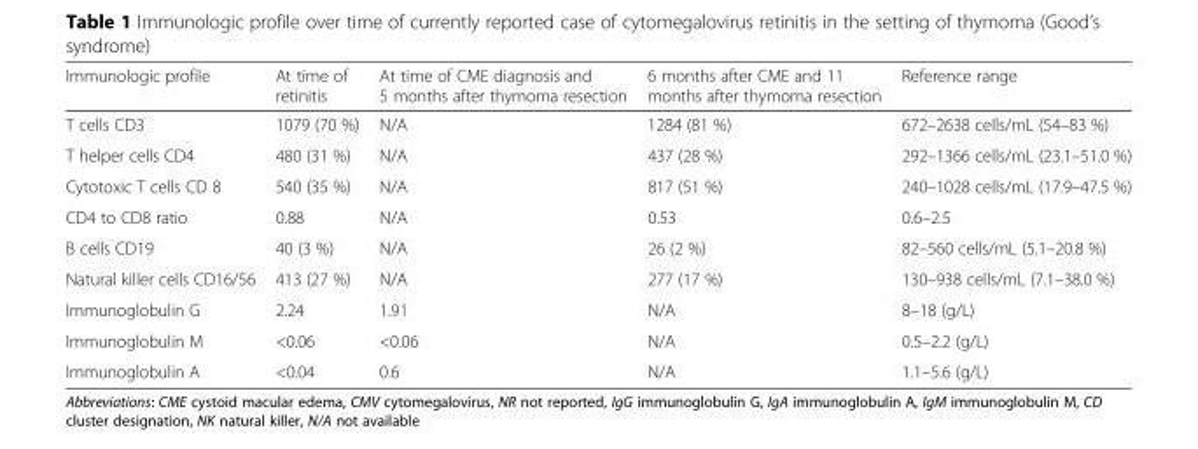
<table><thead><tr><td>Immunologic profile</td><td>At time of retinitis</td><td>At time of CME diagnosis and 5 months after thymoma resection</td><td>6 months after CME and 11 months after thymoma resection</td><td>Reference range</td></tr></thead><tbody><tr><td>T cells CD3</td><td>1079 (70 %)</td><td>N/A</td><td>1284 (81 %)</td><td>672–2638 cells/mL (54–83 %)</td></tr><tr><td>T helper cells CD4</td><td>480 (31 %)</td><td>N/A</td><td>437 (28 %)</td><td>292–1366 cells/mL (23.1–51.0 %)</td></tr><tr><td>Cytotoxic T cells CD 8</td><td>540 (35 %)</td><td>N/A</td><td>817 (51 %)</td><td>240–1028 cells/mL (17.9–47.5 %)</td></tr><tr><td>CD4 to CD8 ratio</td><td>0.88</td><td>N/A</td><td>0.53</td><td>0.6–2.5</td></tr><tr><td>B cells CD19</td><td>40 (3 %)</td><td>N/A</td><td>26 (2 %)</td><td>82–560 cells/mL (5.1–20.8 %)</td></tr><tr><td>Natural killer cells CD16/56</td><td>413 (27 %)</td><td>N/A</td><td>277 (17 %)</td><td>130–938 cells/mL (7.1–38.0 %)</td></tr><tr><td>Immunoglobulin G</td><td>2.24</td><td>1.91</td><td>N/A</td><td>8–18 (g/L)</td></tr><tr><td>Immunoglobulin M</td><td>&lt;0.06</td><td>&lt;0.06</td><td>N/A</td><td>0.5–2.2 (g/L)</td></tr><tr><td>Immunoglobulin A</td><td>&lt;0.04</td><td>0.6</td><td>N/A</td><td>1.1–5.6 (g/L)</td></tr></tbody></table>